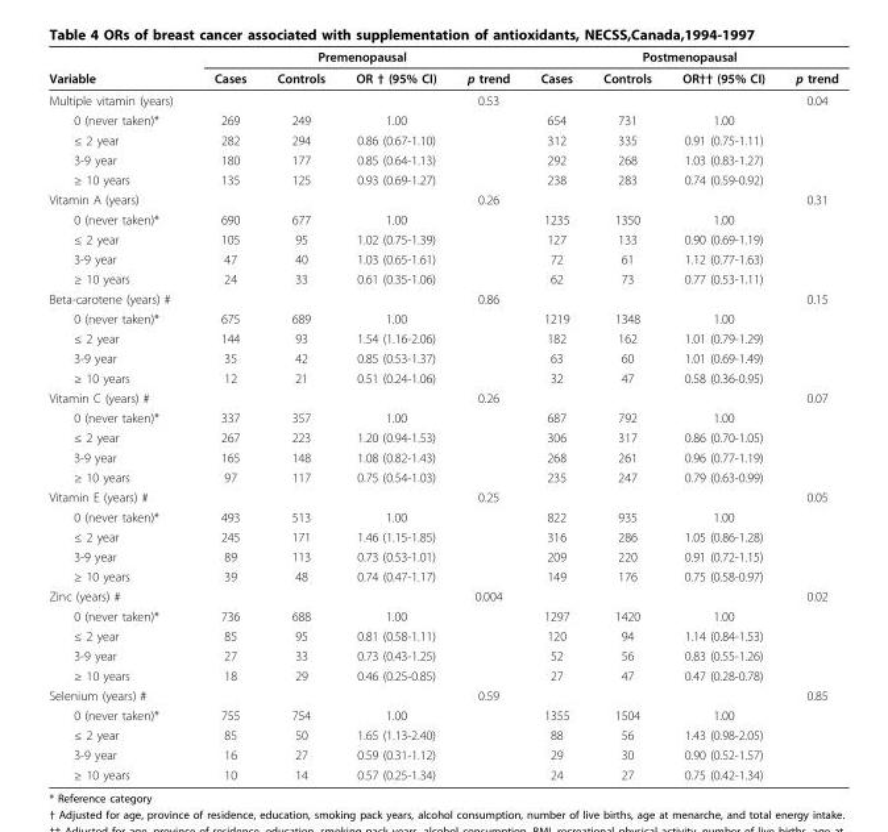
<table><thead><tr><td rowspan="2">Variable</td><td colspan="4">Premenopausal</td><td colspan="4">Postmenopausal</td></tr><tr><td>Cases</td><td>Controls</td><td>OR † (95% CI)</td><td>p trend</td><td>Cases</td><td>Controls</td><td>OR†† (95% CI)</td><td>p trend</td></tr></thead><tbody><tr><td>Multiple vitamin (years)</td><td></td><td></td><td></td><td>0.53</td><td></td><td></td><td></td><td>0.04</td></tr><tr><td>0 (never taken)*</td><td>269</td><td>249</td><td>1.00</td><td></td><td>654</td><td>731</td><td>1.00</td><td></td></tr><tr><td>≤ 2 year</td><td>282</td><td>294</td><td>0.86 (0.67-1.10)</td><td></td><td>312</td><td>335</td><td>0.91 (0.75-1.11)</td><td></td></tr><tr><td>3-9 year</td><td>180</td><td>177</td><td>0.85 (0.64-1.13)</td><td></td><td>292</td><td>268</td><td>1.03 (0.83-1.27)</td><td></td></tr><tr><td>≥ 10 years</td><td>135</td><td>125</td><td>0.93 (0.69-1.27)</td><td></td><td>238</td><td>283</td><td>0.74 (0.59-0.92)</td><td></td></tr><tr><td>Vitamin A (years)</td><td></td><td></td><td></td><td>0.26</td><td></td><td></td><td></td><td>0.31</td></tr><tr><td>0 (never taken)*</td><td>690</td><td>677</td><td>1.00</td><td></td><td>1235</td><td>1350</td><td>1.00</td><td></td></tr><tr><td>≤ 2 year</td><td>105</td><td>95</td><td>1.02 (0.75-1.39)</td><td></td><td>127</td><td>133</td><td>0.90 (0.69-1.19)</td><td></td></tr><tr><td>3-9 year</td><td>47</td><td>40</td><td>1.03 (0.65-1.61)</td><td></td><td>72</td><td>61</td><td>1.12 (0.77-1.63)</td><td></td></tr><tr><td>≥ 10 years</td><td>24</td><td>33</td><td>0.61 (0.35-1.06)</td><td></td><td>62</td><td>73</td><td>0.77 (0.53-1.11)</td><td></td></tr><tr><td>Beta-carotene (years) #</td><td></td><td></td><td></td><td>0.86</td><td></td><td></td><td></td><td>0.15</td></tr><tr><td>0 (never taken)*</td><td>675</td><td>689</td><td>1.00</td><td></td><td>1219</td><td>1348</td><td>1.00</td><td></td></tr><tr><td>≤ 2 year</td><td>144</td><td>93</td><td>1.54 (1.16-2.06)</td><td></td><td>182</td><td>162</td><td>1.01 (0.79-1.29)</td><td></td></tr><tr><td>3-9 year</td><td>35</td><td>42</td><td>0.85 (0.53-1.37)</td><td></td><td>63</td><td>60</td><td>1.01 (0.69-1.49)</td><td></td></tr><tr><td>≥ 10 years</td><td>12</td><td>21</td><td>0.51 (0.24-1.06)</td><td></td><td>32</td><td>47</td><td>0.58 (0.36-0.95)</td><td></td></tr><tr><td>Vitamin C (years) #</td><td></td><td></td><td></td><td>0.26</td><td></td><td></td><td></td><td>0.07</td></tr><tr><td>0 (never taken)*</td><td>337</td><td>357</td><td>1.00</td><td></td><td>687</td><td>792</td><td>1.00</td><td></td></tr><tr><td>≤ 2 year</td><td>267</td><td>223</td><td>1.20 (0.94-1.53)</td><td></td><td>306</td><td>317</td><td>0.86 (0.70-1.05)</td><td></td></tr><tr><td>3-9 year</td><td>165</td><td>148</td><td>1.08 (0.82-1.43)</td><td></td><td>268</td><td>261</td><td>0.96 (0.77-1.19)</td><td></td></tr><tr><td>≥ 10 years</td><td>97</td><td>117</td><td>0.75 (0.54-1.03)</td><td></td><td>235</td><td>247</td><td>0.79 (0.63-0.99)</td><td></td></tr><tr><td>Vitamin E (years) #</td><td></td><td></td><td></td><td>0.25</td><td></td><td></td><td></td><td>0.05</td></tr><tr><td>0 (never taken)*</td><td>493</td><td>513</td><td>1.00</td><td></td><td>822</td><td>935</td><td>1.00</td><td></td></tr><tr><td>≤ 2 year</td><td>245</td><td>171</td><td>1.46 (1.15-1.85)</td><td></td><td>316</td><td>286</td><td>1.05 (0.86-1.28)</td><td></td></tr><tr><td>3-9 year</td><td>89</td><td>113</td><td>0.73 (0.53-1.01)</td><td></td><td>209</td><td>220</td><td>0.91 (0.72-1.15)</td><td></td></tr><tr><td>≥ 10 years</td><td>39</td><td>48</td><td>0.74 (0.47-1.17)</td><td></td><td>149</td><td>176</td><td>0.75 (0.58-0.97)</td><td></td></tr><tr><td>Zinc (years) #</td><td></td><td></td><td></td><td>0.004</td><td></td><td></td><td></td><td>0.02</td></tr><tr><td>0 (never taken)*</td><td>736</td><td>688</td><td>1.00</td><td></td><td>1297</td><td>1420</td><td>1.00</td><td></td></tr><tr><td>≤ 2 year</td><td>85</td><td>95</td><td>0.81 (0.58-1.11)</td><td></td><td>120</td><td>94</td><td>1.14 (0.84-1.53)</td><td></td></tr><tr><td>3-9 year</td><td>27</td><td>33</td><td>0.73 (0.43-1.25)</td><td></td><td>52</td><td>56</td><td>0.83 (0.55-1.26)</td><td></td></tr><tr><td>≥ 10 years</td><td>18</td><td>29</td><td>0.46 (0.25-0.85)</td><td></td><td>27</td><td>47</td><td>0.47 (0.28-0.78)</td><td></td></tr><tr><td>Selenium (years) #</td><td></td><td></td><td></td><td>0.59</td><td></td><td></td><td></td><td>0.85</td></tr><tr><td>0 (never taken)*</td><td>755</td><td>754</td><td>1.00</td><td></td><td>1355</td><td>1504</td><td>1.00</td><td></td></tr><tr><td>≤ 2 year</td><td>85</td><td>50</td><td>1.65 (1.13-2.40)</td><td></td><td>88</td><td>56</td><td>1.43 (0.98-2.05)</td><td></td></tr><tr><td>3-9 year</td><td>16</td><td>27</td><td>0.59 (0.31-1.12)</td><td></td><td>29</td><td>30</td><td>0.90 (0.52-1.57)</td><td></td></tr><tr><td>≥ 10 years</td><td>10</td><td>14</td><td>0.57 (0.25-1.34)</td><td></td><td>24</td><td>27</td><td>0.75 (0.42-1.34)</td><td></td></tr></tbody></table>